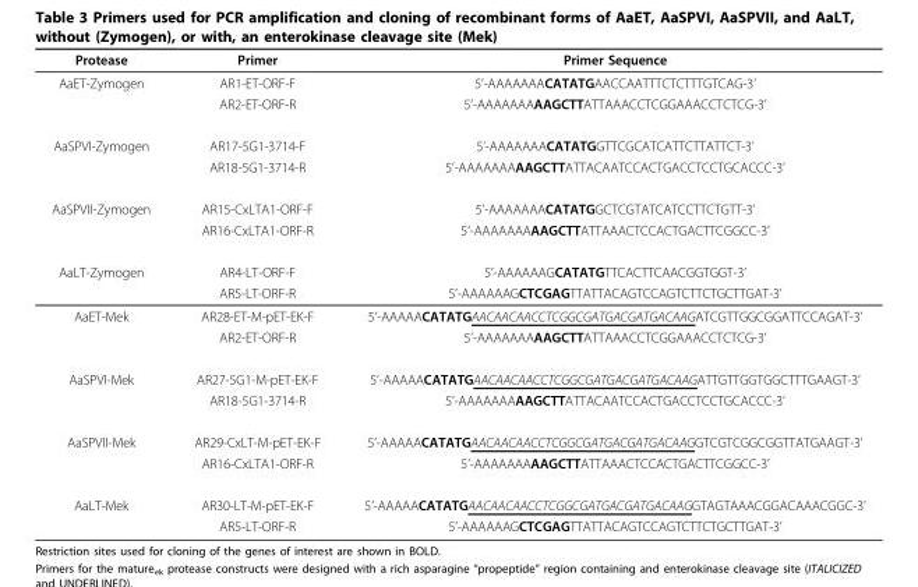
<table><thead><tr><td>Protease</td><td>Primer</td><td>Primer Sequence</td></tr></thead><tbody><tr><td rowspan="2">AaET-Zymogen</td><td>AR1-ET-ORF-F</td><td>5’-AAAAAAACATATGAACCAATTTCTCTTTGTCAG-3’</td></tr><tr><td>AR2-ET-ORF-R</td><td>5’-AAAAAAAAAGCTTATTAAACCTCGGAAACCTCTCG-3’</td></tr><tr><td rowspan="2">AaSPVI-Zymogen</td><td>AR17-5G1-3714-F</td><td>5’-AAAAAAACATATGGTTCGCATCATTCTTATTCT-3’</td></tr><tr><td>AR18-5G1-3714-R</td><td>5’-AAAAAAAAAGCTTATTACAATCCACTGACCTCCTGCACCC-3’</td></tr><tr><td rowspan="2">AaSPVII-Zymogen</td><td>AR15-CxLTA1-ORF-F</td><td>5’-AAAAAAACATATGGCTCGTATCATCCTTCTGTT-3’</td></tr><tr><td>AR16-CxLTA1-ORF-R</td><td>5’-AAAAAAAAAGCTTATTAAACTCCACTGACTTCGGCC-3’</td></tr><tr><td rowspan="2">AaLT-Zymogen</td><td>AR4-LT-ORF-F</td><td>5’-AAAAAAGCATATGTTCACTTCAACGGTGGT-3’</td></tr><tr><td>AR5-LT-ORF-R</td><td>5’-AAAAAAGCTCGAGTTATTACAGTCCAGTCTTCTGCTTGAT-3’</td></tr><tr><td rowspan="2">AaET-Mek</td><td>AR28-ET-M-pET-EK-F</td><td>5’-AAAAACATATGAACAACAACCTCGGCGATGACGATGACAAGATCGTTGGCGGATTCCAGAT-3’</td></tr><tr><td>AR2-ET-ORF-R</td><td>5’-AAAAAAAAAGCTTATTAAACCTCGGAAACCTCTCG-3’</td></tr><tr><td rowspan="2">AaSPVI-Mek</td><td>AR27-5G1-M-pET-EK-F</td><td>5’-AAAAACATATGAACAACAACCTCGGCGATGACGATGACAAGATTGTTGGTGGCTTTGAAGT-3’</td></tr><tr><td>AR18-5G1-3714-R</td><td>5’-AAAAAAAAAGCTTATTACAATCCACTGACCTCCTGCACCC-3’</td></tr><tr><td rowspan="2">AaSPVII-Mek</td><td>AR29-CxLT-M-pET-EK-F</td><td>5’-AAAAACATATGAACAACAACCTCGGCGATGACGATGACAAGGTCGTCGGCGGTTATGAAGT-3’</td></tr><tr><td>AR16-CxLTA1-ORF-R</td><td>5’-AAAAAAAAAGCTTATTAAACTCCACTGACTTCGGCC-3’</td></tr><tr><td rowspan="2">AaLT-Mek</td><td>AR30-LT-M-pET-EK-F</td><td>5’-AAAAACATATGAACAACAACCTCGGCGATGACGATGACAAGGTAGTAAACGGACAAACGGC-3’</td></tr><tr><td>AR5-LT-ORF-R</td><td>5’-AAAAAAGCTCGAGTTATTACAGTCCAGTCTTCTGCTTGAT-3’</td></tr></tbody></table>